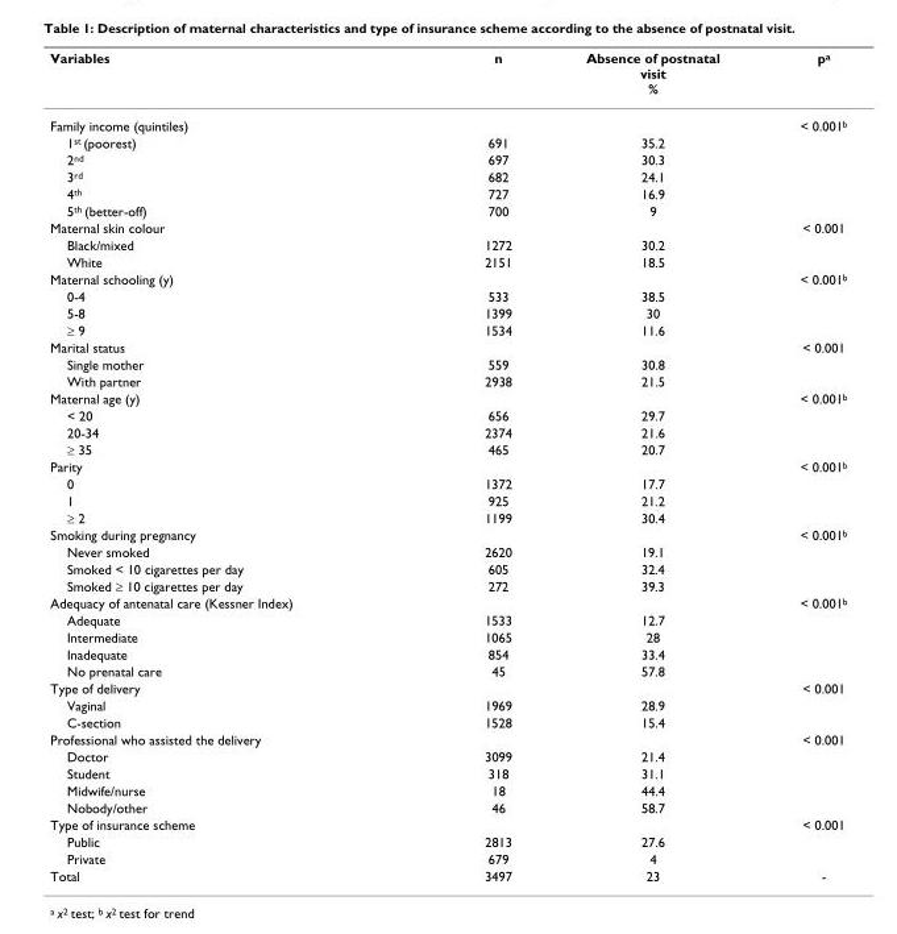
<table><thead><tr><td>Variables</td><td>n</td><td>Absence of postnatal visit %</td><td>p<sup>a</sup></td></tr></thead><tbody><tr><td>Family income (quintiles)</td><td></td><td></td><td>&lt; 0.001<sup>b</sup></td></tr><tr><td>1<sup>st</sup> (poorest)</td><td>691</td><td>35.2</td><td></td></tr><tr><td>2<sup>nd</sup></td><td>697</td><td>30.3</td><td></td></tr><tr><td>3<sup>rd</sup></td><td>682</td><td>24.1</td><td></td></tr><tr><td>4<sup>th</sup></td><td>727</td><td>16.9</td><td></td></tr><tr><td>5<sup>th</sup> (better-off)</td><td>700</td><td>9</td><td></td></tr><tr><td>Maternal skin colour</td><td></td><td></td><td>&lt; 0.001</td></tr><tr><td>Black/mixed</td><td>1272</td><td>30.2</td><td></td></tr><tr><td>White</td><td>2151</td><td>18.5</td><td></td></tr><tr><td>Maternal schooling (y)</td><td></td><td></td><td>&lt; 0.001<sup>b</sup></td></tr><tr><td>0-4</td><td>533</td><td>38.5</td><td></td></tr><tr><td>5-8</td><td>1399</td><td>30</td><td></td></tr><tr><td>≥ 9</td><td>1534</td><td>11.6</td><td></td></tr><tr><td>Marital status</td><td></td><td></td><td>&lt; 0.001</td></tr><tr><td>Single mother</td><td>559</td><td>30.8</td><td></td></tr><tr><td>With partner</td><td>2938</td><td>21.5</td><td></td></tr><tr><td>Maternal age (y)</td><td></td><td></td><td>&lt; 0.001<sup>b</sup></td></tr><tr><td>&lt; 20</td><td>656</td><td>29.7</td><td></td></tr><tr><td>20-34</td><td>2374</td><td>21.6</td><td></td></tr><tr><td>≥ 35</td><td>465</td><td>20.7</td><td></td></tr><tr><td>Parity</td><td></td><td></td><td>&lt; 0.001<sup>b</sup></td></tr><tr><td>0</td><td>1372</td><td>17.7</td><td></td></tr><tr><td>1</td><td>925</td><td>21.2</td><td></td></tr><tr><td>≥ 2</td><td>1199</td><td>30.4</td><td></td></tr><tr><td>Smoking during pregnancy</td><td></td><td></td><td>&lt; 0.001<sup>b</sup></td></tr><tr><td>Never smoked</td><td>2620</td><td>19.1</td><td></td></tr><tr><td>Smoked &lt; 10 cigarettes per day</td><td>605</td><td>32.4</td><td></td></tr><tr><td>Smoked ≥ 10 cigarettes per day</td><td>272</td><td>39.3</td><td></td></tr><tr><td>Adequacy of antenatal care (Kessner Index)</td><td></td><td></td><td>&lt; 0.001<sup>b</sup></td></tr><tr><td>Adequate</td><td>1533</td><td>12.7</td><td></td></tr><tr><td>Intermediate</td><td>1065</td><td>28</td><td></td></tr><tr><td>Inadequate</td><td>854</td><td>33.4</td><td></td></tr><tr><td>No prenatal care</td><td>45</td><td>57.8</td><td></td></tr><tr><td>Type of delivery</td><td></td><td></td><td>&lt; 0.001</td></tr><tr><td>Vaginal</td><td>1969</td><td>28.9</td><td></td></tr><tr><td>C-section</td><td>1528</td><td>15.4</td><td></td></tr><tr><td>Professional who assisted the delivery</td><td></td><td></td><td>&lt; 0.001</td></tr><tr><td>Doctor</td><td>3099</td><td>21.4</td><td></td></tr><tr><td>Student</td><td>318</td><td>31.1</td><td></td></tr><tr><td>Midwife/nurse</td><td>18</td><td>44.4</td><td></td></tr><tr><td>Nobody/other</td><td>46</td><td>58.7</td><td></td></tr><tr><td>Type of insurance scheme</td><td></td><td></td><td>&lt; 0.001</td></tr><tr><td>Public</td><td>2813</td><td>27.6</td><td></td></tr><tr><td>Private</td><td>679</td><td>4</td><td></td></tr><tr><td>Total</td><td>3497</td><td>23</td><td>-</td></tr></tbody></table>